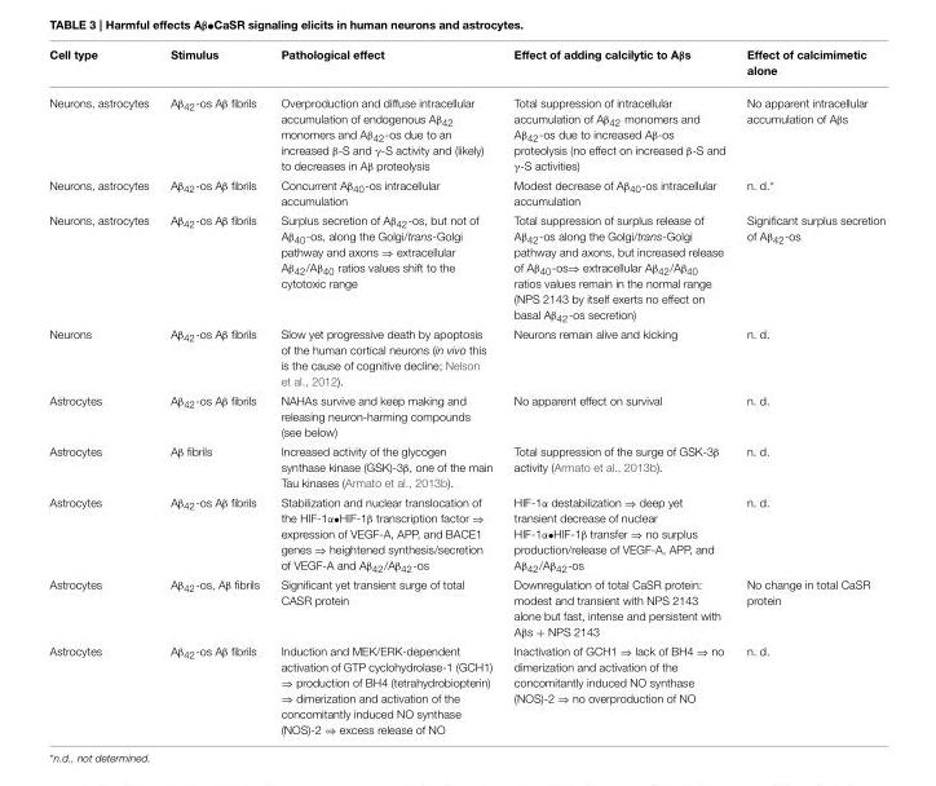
<table><thead><tr><td>Cell type</td><td>Stimulus</td><td>Pathological effect</td><td>Effect of adding calcilytic to Aβs</td><td>Effect of calcimimetic alone</td></tr></thead><tbody><tr><td>Neurons, astrocytes</td><td>Aβ<sub>42</sub>-os Aβ fibrils</td><td>Overproduction and diffuse intracellular accumulation of endogenous Aβ<sub>42</sub> monomers and Aβ<sub>42</sub>-os due to an increased β-S and γ-S activity and (likely) to decreases in Aβ proteolysis</td><td>Total suppression of intracellular accumulation of Aβ<sub>42</sub> monomers and Aβ<sub>42</sub>-os due to increased Aβ-os proteolysis (no effect on increased β-S and γ-S activities)</td><td>No apparent intracellular accumulation of Aβs</td></tr><tr><td>Neurons, astrocytes</td><td>Aβ<sub>42</sub>-os Aβ fibrils</td><td>Concurrent Aβ<sub>40</sub>-os intracellular accumulation</td><td>Modest decrease of Aβ<sub>40</sub>-os intracellular accumulation</td><td>n. d.*</td></tr><tr><td>Neurons, astrocytes</td><td>Aβ<sub>42</sub>-os Aβ fibrils</td><td>Surplus secretion of Aβ<sub>42</sub>-os, but not of Aβ<sub>40</sub>-os, along the Golgi/trans-Golgi pathway and axons ⇒ extracellular Aβ<sub>42</sub>/Aβ<sub>40</sub> ratios values shift to the cytotoxic range</td><td>Total suppression of surplus release of Aβ<sub>42</sub>-os along the Golgi/trans-Golgi pathway and axons, but increased release of Aβ<sub>40</sub>-os⇒ extracellular Aβ<sub>42</sub>/Aβ<sub>40</sub> ratios values remain in the normal range (NPS 2143 by itself exerts no effect on basal Aβ<sub>42</sub>-os secretion)</td><td>Significant surplus secretion of Aβ<sub>42</sub>-os</td></tr><tr><td>Neurons</td><td>Aβ<sub>42</sub>-os Aβ fibrils</td><td>Slow yet progressive death by apoptosis of the human cortical neurons (in vivo this is the cause of cognitive decline; Nelson et al., 2012).</td><td>Neurons remain alive and kicking</td><td>n. d.</td></tr><tr><td>Astrocytes</td><td>Aβ<sub>42</sub>-os Aβ fibrils</td><td>NAHAs survive and keep making and releasing neuron-harming compounds (see below)</td><td>No apparent effect on survival</td><td>n. d.</td></tr><tr><td>Astrocytes</td><td>Aβ fibrils</td><td>Increased activity of the glycogen synthase kinase (GSK)-3β, one of the main Tau kinases (Armato et al., 2013b).</td><td>Total suppression of the surge of GSK-3β activity (Armato et al., 2013b).</td><td>n. d.</td></tr><tr><td>Astrocytes</td><td>Aβ<sub>42</sub>-os Aβ fibrils</td><td>Stabilization and nuclear translocation of the HIF-1α•HIF-1β transcription factor ⇒ expression of VEGF-A, APP, and BACE1 genes ⇒ heightened synthesis/secretion of VEGF-A and Aβ<sub>42</sub>/Aβ<sub>42</sub>-os</td><td>HIF-1α destabilization ⇒ deep yet transient decrease of nuclear HIF-1α•HIF-1β transfer ⇒ no surplus production/release of VEGF-A, APP, and Aβ<sub>42</sub>/Aβ<sub>42</sub>-os</td><td>n. d.</td></tr><tr><td>Astrocytes</td><td>Aβ<sub>42</sub>-os, Aβ fibrils</td><td>Significant yet transient surge of total CASR protein</td><td>Downregulation of total CaSR protein: modest and transient with NPS 2143 alone but fast, intense and persistent with Aβs + NPS 2143</td><td>No change in total CaSR protein</td></tr><tr><td>Astrocytes</td><td>Aβ<sub>42</sub>-os Aβ fibrils</td><td>Induction and MEK/ERK-dependent activation of GTP cyclohydrolase-1 (GCH1) ⇒ production of BH4 (tetrahydrobiopterin) ⇒ dimerization and activation of the concomitantly induced NO synthase (NOS)-2 ⇒ excess release of NO</td><td>Inactivation of GCH1 ⇒ lack of BH4 ⇒ no dimerization and activation of the concomitantly induced NO synthase (NOS)-2 ⇒ no overproduction of NO</td><td>n. d.</td></tr></tbody></table>